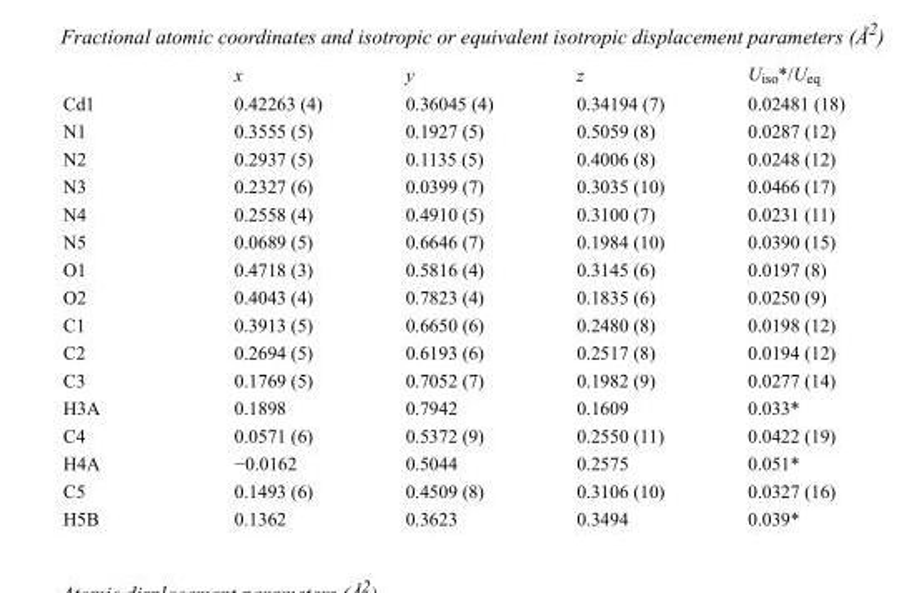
<table><thead><tr><td></td><td>x</td><td>y</td><td>z</td><td>U<sub>iso</sub>*/U<sub>eq</sub></td></tr></thead><tbody><tr><td>Cd1</td><td>0.42263 (4)</td><td>0.36045 (4)</td><td>0.34194 (7)</td><td>0.02481 (18)</td></tr><tr><td>N1</td><td>0.3555 (5)</td><td>0.1927 (5)</td><td>0.5059 (8)</td><td>0.0287 (12)</td></tr><tr><td>N2</td><td>0.2937 (5)</td><td>0.1135 (5)</td><td>0.4006 (8)</td><td>0.0248 (12)</td></tr><tr><td>N3</td><td>0.2327 (6)</td><td>0.0399 (7)</td><td>0.3035 (10)</td><td>0.0466 (17)</td></tr><tr><td>N4</td><td>0.2558 (4)</td><td>0.4910 (5)</td><td>0.3100 (7)</td><td>0.0231 (11)</td></tr><tr><td>N5</td><td>0.0689 (5)</td><td>0.6646 (7)</td><td>0.1984 (10)</td><td>0.0390 (15)</td></tr><tr><td>O1</td><td>0.4718 (3)</td><td>0.5816 (4)</td><td>0.3145 (6)</td><td>0.0197 (8)</td></tr><tr><td>O2</td><td>0.4043 (4)</td><td>0.7823 (4)</td><td>0.1835 (6)</td><td>0.0250 (9)</td></tr><tr><td>C1</td><td>0.3913 (5)</td><td>0.6650 (6)</td><td>0.2480 (8)</td><td>0.0198 (12)</td></tr><tr><td>C2</td><td>0.2694 (5)</td><td>0.6193 (6)</td><td>0.2517 (8)</td><td>0.0194 (12)</td></tr><tr><td>C3</td><td>0.1769 (5)</td><td>0.7052 (7)</td><td>0.1982 (9)</td><td>0.0277 (14)</td></tr><tr><td>H3A</td><td>0.1898</td><td>0.7942</td><td>0.1609</td><td>0.033*</td></tr><tr><td>C4</td><td>0.0571 (6)</td><td>0.5372 (9)</td><td>0.2550 (11)</td><td>0.0422 (19)</td></tr><tr><td>H4A</td><td>−0.0162</td><td>0.5044</td><td>0.2575</td><td>0.051*</td></tr><tr><td>C5</td><td>0.1493 (6)</td><td>0.4509 (8)</td><td>0.3106 (10)</td><td>0.0327 (16)</td></tr><tr><td>H5B</td><td>0.1362</td><td>0.3623</td><td>0.3494</td><td>0.039*</td></tr></tbody></table>